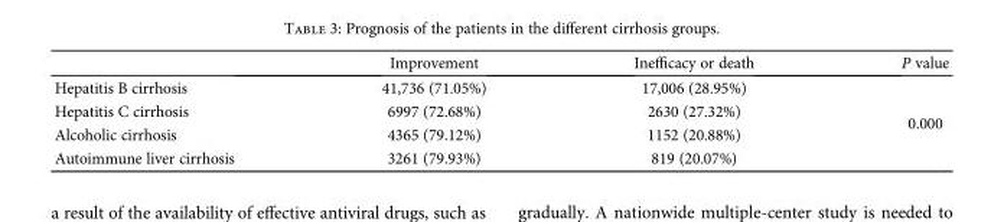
<table><thead><tr><td></td><td>Improvement</td><td>Inefficacy or death</td><td>P value</td></tr></thead><tbody><tr><td>Hepatitis B cirrhosis</td><td>41,736 (71.05%)</td><td>17,006 (28.95%)</td><td rowspan="4">0.000</td></tr><tr><td>Hepatitis C cirrhosis</td><td>6997 (72.68%)</td><td>2630 (27.32%)</td></tr><tr><td>Alcoholic cirrhosis</td><td>4365 (79.12%)</td><td>1152 (20.88%)</td></tr><tr><td>Autoimmune liver cirrhosis</td><td>3261 (79.93%)</td><td>819 (20.07%)</td></tr></tbody></table>